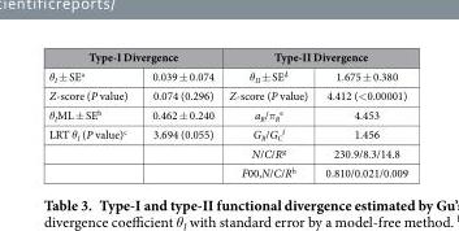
<table><thead><tr><td colspan="2">Type-I Divergence</td><td colspan="2">Type-II Divergence</td></tr><tr><td>θ<sub>I</sub> ± SE<sup>a</sup></td><td>0.039 ± 0.074</td><td>θ<sub>II</sub> ± SE<sup>d</sup></td><td>1.675 ± 0.380</td></tr></thead><tbody><tr><td>Z-score (P value)</td><td>0.074 (0.296)</td><td>Z-score (P value)</td><td>4.412 (&lt; 0.00001)</td></tr><tr><td>θ<sub>I</sub>ML ± SE<sup>b</sup></td><td>0.462 ± 0.240</td><td>a<sub>R</sub>/π<sub>R</sub> <sup>e</sup></td><td>4.453</td></tr><tr><td rowspan="3">LRT θ<sub>I</sub> (P value)<sup>c</sup></td><td>3.694 (0.055)</td><td>G<sub>R</sub>/G<sub>C</sub> <sup>f</sup></td><td>1.456</td></tr><tr><td></td><td>N/C/R<sup>g</sup></td><td>230.9/8.3/14.8</td></tr><tr><td></td><td>F00,N/C/R<sup>h</sup></td><td>0.810/0.021/0.009</td></tr></tbody></table>